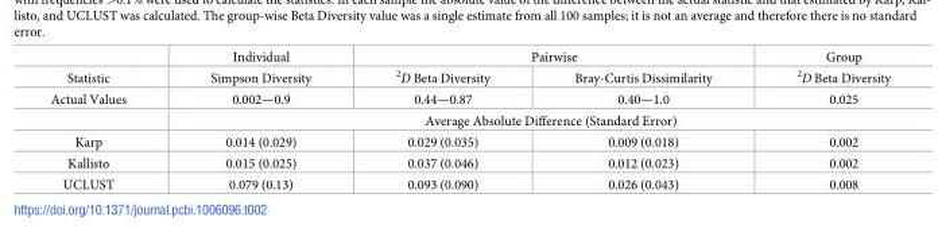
<table><thead><tr><td rowspan="2">Statistic</td><td rowspan="2">Individual Simpson Diversity</td><td colspan="2">Pairwise</td><td rowspan="2">Group <sup>2</sup>D Beta Diversity</td></tr><tr><td><sup>2</sup>D Beta Diversity</td><td>Bray-Curtis Dissimilarity</td></tr></thead><tbody><tr><td rowspan="2">Actual Values</td><td>0.002—0.9</td><td>0.44—0.87</td><td>0.40—1.0</td><td>0.025</td></tr><tr><td colspan="4">Average Absolute Difference (Standard Error)</td></tr><tr><td>Karp</td><td>0.014 (0.029)</td><td>0.029 (0.035)</td><td>0.009 (0.018)</td><td>0.002</td></tr><tr><td>Kallisto</td><td>0.015 (0.025)</td><td>0.037 (0.046)</td><td>0.012 (0.023)</td><td>0.002</td></tr><tr><td>UCLUST</td><td>0.079 (0.13)</td><td>0.093 (0.090)</td><td>0.026 (0.043)</td><td>0.008</td></tr></tbody></table>